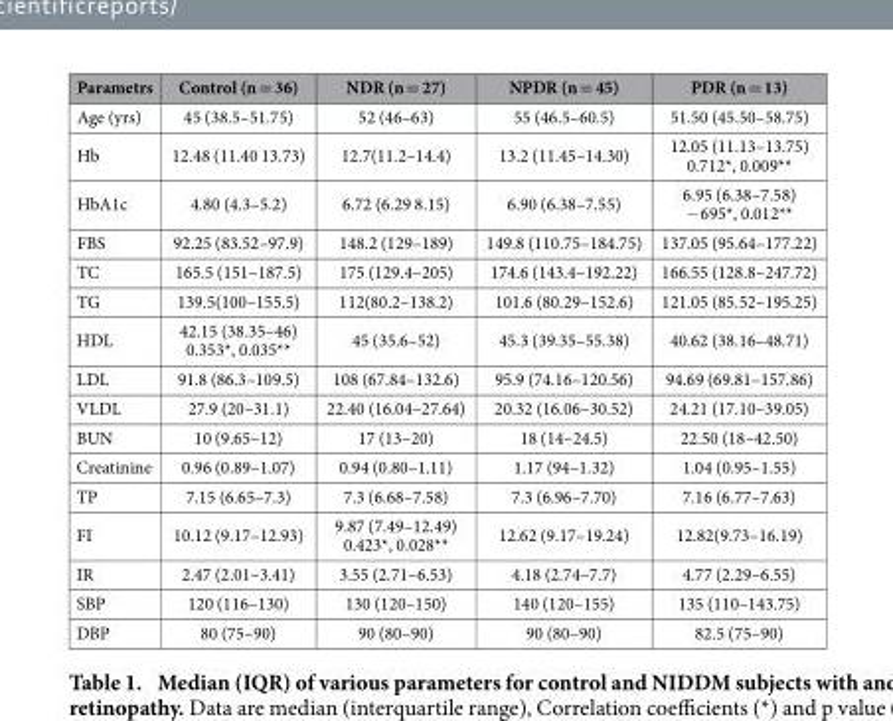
<table><thead><tr><td>Parametrs</td><td>Control (n = 36)</td><td>NDR (n = 27)</td><td>NPDR (n = 45)</td><td>PDR (n = 13)</td></tr></thead><tbody><tr><td>Age (yrs)</td><td>45 (38.5–51.75)</td><td>52 (46–63)</td><td>55 (46.5–60.5)</td><td>51.50 (45.50–58.75)</td></tr><tr><td>Hb</td><td>12.48 (11.40 13.73)</td><td>12.7(11.2–14.4)</td><td>13.2 (11.45–14.30)</td><td>12.05 (11.13–13.75) 0.712*, 0.009**</td></tr><tr><td>HbA1c</td><td>4.80 (4.3–5.2)</td><td>6.72 (6.29 8.15)</td><td>6.90 (6.38–7.55)</td><td>6.95 (6.38–7.58) − 695*, 0.012**</td></tr><tr><td>FBS</td><td>92.25 (83.52–97.9)</td><td>148.2 (129–189)</td><td>149.8 (110.75–184.75)</td><td>137.05 (95.64–177.22)</td></tr><tr><td>TC</td><td>165.5 (151–187.5)</td><td>175 (129.4–205)</td><td>174.6 (143.4–192.22)</td><td>166.55 (128.8–247.72)</td></tr><tr><td>TG</td><td>139.5(100–155.5)</td><td>112(80.2–138.2)</td><td>101.6 (80.29–152.6)</td><td>121.05 (85.52–195.25)</td></tr><tr><td>HDL</td><td>42.15 (38.35–46) 0.353*, 0.035**</td><td>45 (35.6–52)</td><td>45.3 (39.35–55.38)</td><td>40.62 (38.16–48.71)</td></tr><tr><td>LDL</td><td>91.8 (86.3–109.5)</td><td>108 (67.84–132.6)</td><td>95.9 (74.16–120.56)</td><td>94.69 (69.81–157.86)</td></tr><tr><td>VLDL</td><td>27.9 (20–31.1)</td><td>22.40 (16.04–27.64)</td><td>20.32 (16.06–30.52)</td><td>24.21 (17.10–39.05)</td></tr><tr><td>BUN</td><td>10 (9.65–12)</td><td>17 (13–20)</td><td>18 (14–24.5)</td><td>22.50 (18–42.50)</td></tr><tr><td>Creatinine</td><td>0.96 (0.89–1.07)</td><td>0.94 (0.80–1.11)</td><td>1.17 (94–1.32)</td><td>1.04 (0.95–1.55)</td></tr><tr><td>TP</td><td>7.15 (6.65–7.3)</td><td>7.3 (6.68–7.58)</td><td>7.3 (6.96–7.70)</td><td>7.16 (6.77–7.63)</td></tr><tr><td>FI</td><td>10.12 (9.17–12.93)</td><td>9.87 (7.49–12.49) 0.423*, 0.028**</td><td>12.62 (9.17–19.24)</td><td>12.82(9.73–16.19)</td></tr><tr><td>IR</td><td>2.47 (2.01–3.41)</td><td>3.55 (2.71–6.53)</td><td>4.18 (2.74–7.7)</td><td>4.77 (2.29–6.55)</td></tr><tr><td>SBP</td><td>120 (116–130)</td><td>130 (120–150)</td><td>140 (120–155)</td><td>135 (110–143.75)</td></tr><tr><td>DBP</td><td>80 (75–90)</td><td>90 (80–90)</td><td>90 (80–90)</td><td>82.5 (75–90)</td></tr></tbody></table>